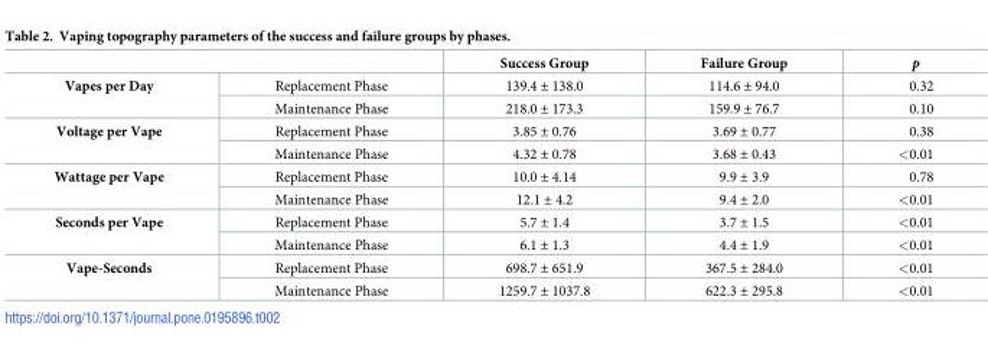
<table><thead><tr><td></td><td></td><td>Success Group</td><td>Failure Group</td><td>p</td></tr></thead><tbody><tr><td rowspan="2">Vapes per Day</td><td>Replacement Phase</td><td>139.4 ± 138.0</td><td>114.6 ± 94.0</td><td>0.32</td></tr><tr><td>Maintenance Phase</td><td>218.0 ± 173.3</td><td>159.9 ± 76.7</td><td>0.10</td></tr><tr><td rowspan="2">Voltage per Vape</td><td>Replacement Phase</td><td>3.85 ± 0.76</td><td>3.69 ± 0.77</td><td>0.38</td></tr><tr><td>Maintenance Phase</td><td>4.32 ± 0.78</td><td>3.68 ± 0.43</td><td>&lt;0.01</td></tr><tr><td rowspan="2">Wattage per Vape</td><td>Replacement Phase</td><td>10.0 ± 4.14</td><td>9.9 ± 3.9</td><td>0.78</td></tr><tr><td>Maintenance Phase</td><td>12.1 ± 4.2</td><td>9.4 ± 2.0</td><td>&lt;0.01</td></tr><tr><td rowspan="2">Seconds per Vape</td><td>Replacement Phase</td><td>5.7 ± 1.4</td><td>3.7 ± 1.5</td><td>&lt;0.01</td></tr><tr><td>Maintenance Phase</td><td>6.1 ± 1.3</td><td>4.4 ± 1.9</td><td>&lt;0.01</td></tr><tr><td rowspan="2">Vape-Seconds</td><td>Replacement Phase</td><td>698.7 ± 651.9</td><td>367.5 ± 284.0</td><td>&lt;0.01</td></tr><tr><td>Maintenance Phase</td><td>1259.7 ± 1037.8</td><td>622.3 ± 295.8</td><td>&lt;0.01</td></tr></tbody></table>